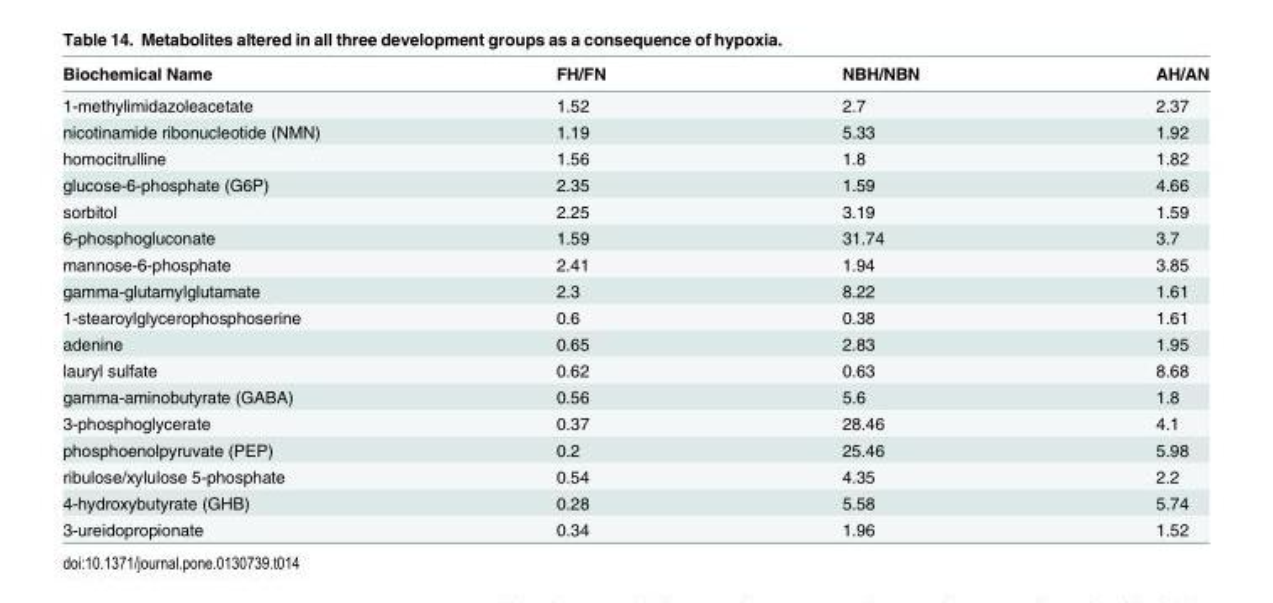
<table><thead><tr><td>Biochemical Name</td><td>FH/FN</td><td>NBH/NBN</td><td>AH/AN</td></tr></thead><tbody><tr><td>1-methylimidazoleacetate</td><td>1.52</td><td>2.7</td><td>2.37</td></tr><tr><td>nicotinamide ribonucleotide (NMN)</td><td>1.19</td><td>5.33</td><td>1.92</td></tr><tr><td>homocitrulline</td><td>1.56</td><td>1.8</td><td>1.82</td></tr><tr><td>glucose-6-phosphate (G6P)</td><td>2.35</td><td>1.59</td><td>4.66</td></tr><tr><td>sorbitol</td><td>2.25</td><td>3.19</td><td>1.59</td></tr><tr><td>6-phosphogluconate</td><td>1.59</td><td>31.74</td><td>3.7</td></tr><tr><td>mannose-6-phosphate</td><td>2.41</td><td>1.94</td><td>3.85</td></tr><tr><td>gamma-glutamylglutamate</td><td>2.3</td><td>8.22</td><td>1.61</td></tr><tr><td>1-stearoylglycerophosphoserine</td><td>0.6</td><td>0.38</td><td>1.61</td></tr><tr><td>adenine</td><td>0.65</td><td>2.83</td><td>1.95</td></tr><tr><td>lauryl sulfate</td><td>0.62</td><td>0.63</td><td>8.68</td></tr><tr><td>gamma-aminobutyrate (GABA)</td><td>0.56</td><td>5.6</td><td>1.8</td></tr><tr><td>3-phosphoglycerate</td><td>0.37</td><td>28.46</td><td>4.1</td></tr><tr><td>phosphoenolpyruvate (PEP)</td><td>0.2</td><td>25.46</td><td>5.98</td></tr><tr><td>ribulose/xylulose 5-phosphate</td><td>0.54</td><td>4.35</td><td>2.2</td></tr><tr><td>4-hydroxybutyrate (GHB)</td><td>0.28</td><td>5.58</td><td>5.74</td></tr><tr><td>3-ureidopropionate</td><td>0.34</td><td>1.96</td><td>1.52</td></tr></tbody></table>